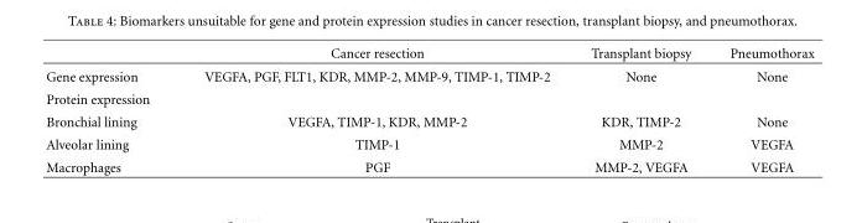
<table><thead><tr><td></td><td>Cancer resection</td><td>Transplant biopsy</td><td>Pneumothorax</td></tr></thead><tbody><tr><td>Gene expression</td><td>VEGFA, PGF, FLT1, KDR, MMP-2, MMP-9, TIMP-1, TIMP-2</td><td>None</td><td>None</td></tr><tr><td colspan="4">Protein expression</td></tr><tr><td>Bronchial lining</td><td>VEGFA, TIMP-1, KDR, MMP-2</td><td>KDR, TIMP-2</td><td>None</td></tr><tr><td>Alveolar lining</td><td>TIMP-1</td><td>MMP-2</td><td>VEGFA</td></tr><tr><td>Macrophages</td><td>PGF</td><td>MMP-2, VEGFA</td><td>VEGFA</td></tr></tbody></table>